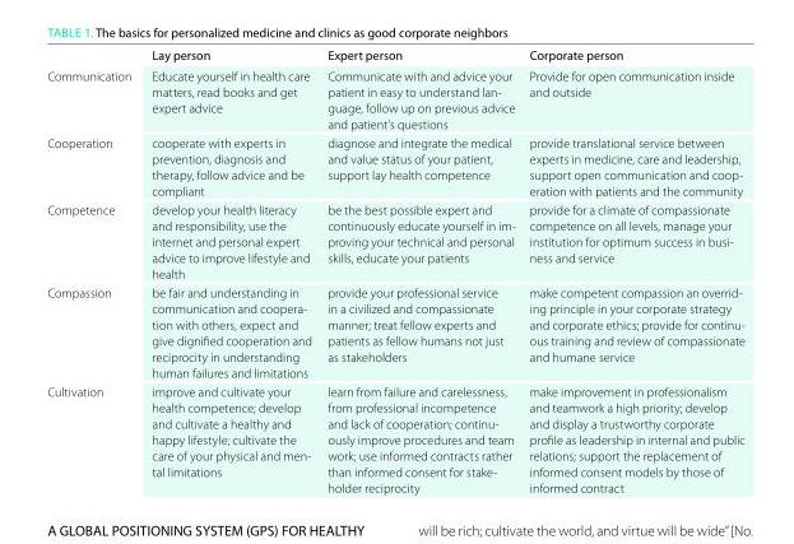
<table><thead><tr><td></td><td>lay person</td><td>expert person</td><td>corporate person</td></tr></thead><tbody><tr><td>Communication</td><td>Educate yourself in health care matters, read books and get expert advice</td><td>Communicate with and advice your patient in easy to understand lan- guage, follow up on previous advice and patient’s questions</td><td>Provide for open communication inside and outside</td></tr><tr><td>Cooperation</td><td>cooperate with experts in prevention, diagnosis and therapy, follow advice and be compliant</td><td>diagnose and integrate the medical and value status of your patient, support lay health competence</td><td>provide translational service between experts in medicine, care and leadership, support open communication and coop- eration with patients and the community</td></tr><tr><td>Competence</td><td>develop your health literacy and responsibility, use the internet and personal expert advice to improve lifestyle and health</td><td>be the best possible expert and continuously educate yourself in im- proving your technical and personal skills, educate your patients</td><td>provide for a climate of compassionate competence on all levels, manage your institution for optimum success in busi- ness and service</td></tr><tr><td>Compassion</td><td>be fair and understanding in communication and coopera- tion with others, expect and give dignified cooperation and reciprocity in understanding human failures and limitations</td><td>provide your professional service in a civilized and compassionate manner; treat fellow experts and patients as fellow humans not just as stakeholders</td><td>make competent compassion an overrid- ing principle in your corporate strategy and corporate ethics; provide for continu- ous training and review of compassionate and humane service</td></tr><tr><td>Cultivation</td><td>improve and cultivate your health competence; develop and cultivate a healthy and happy lifestyle; cultivate the care of your physical and men- tal limitations</td><td>learn from failure and carelessness, from professional incompetence and lack of cooperation; continu- ously improve procedures and team work; use informed contracts rather than informed consent for stake- holder reciprocity</td><td>make improvement in professionalism and teamwork a high priority; develop and display a trustworthy corporate profile as leadership in internal and public relations; support the replacement of informed consent models by those of informed contract</td></tr></tbody></table>